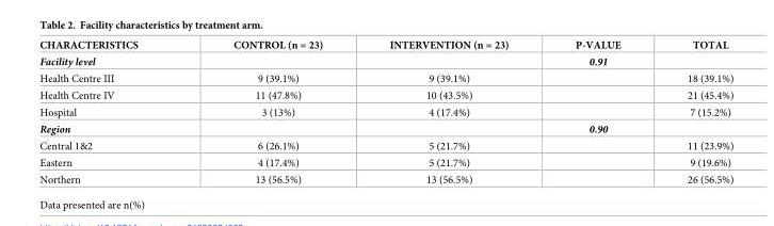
<table><thead><tr><td>CHARACTERISTICS</td><td>CONTROL (n = 23)</td><td>INTERVENTION (n = 23)</td><td>P-VALUE</td><td>TOTAL</td></tr></thead><tbody><tr><td>Facility level</td><td></td><td></td><td>0.91</td><td></td></tr><tr><td>Health Centre III</td><td>9 (39.1%)</td><td>9 (39.1%)</td><td></td><td>18 (39.1%)</td></tr><tr><td>Health Centre IV</td><td>11 (47.8%)</td><td>10 (43.5%)</td><td></td><td>21 (45.4%)</td></tr><tr><td>Hospital</td><td>3 (13%)</td><td>4 (17.4%)</td><td></td><td>7 (15.2%)</td></tr><tr><td>Region</td><td></td><td></td><td>0.90</td><td></td></tr><tr><td>Central 1&amp;2</td><td>6 (26.1%)</td><td>5 (21.7%)</td><td></td><td>11 (23.9%)</td></tr><tr><td>Eastern</td><td>4 (17.4%)</td><td>5 (21.7%)</td><td></td><td>9 (19.6%)</td></tr><tr><td>Northern</td><td>13 (56.5%)</td><td>13 (56.5%)</td><td></td><td>26 (56.5%)</td></tr></tbody></table>